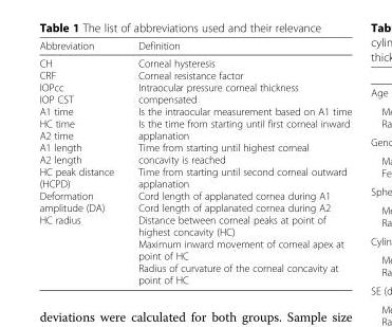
<table><thead><tr><td>Abbreviation</td><td>Definition</td></tr></thead><tbody><tr><td>CH CRF IOPcc IOP CST A1 time HC time A2 time A1 length A2 length HC peak distance (HCPD) Deformation amplitude (DA) HC radius</td><td>Corneal hysteresis Corneal resistance factor Intraocular pressure corneal thickness compensated Is the intraocular measurement based on A1 time Is the time from starting until first corneal inward applanation Time from starting until highest corneal concavity is reached Time from starting until second corneal outward applanation Cord length of applanated cornea during A1 Cord length of applanated cornea during A2 Distance between corneal peaks at point of highest concavity (HC) Maximum inward movement of corneal apex at point of HC Radius of curvature of the corneal concavity at point of HC</td></tr></tbody></table>